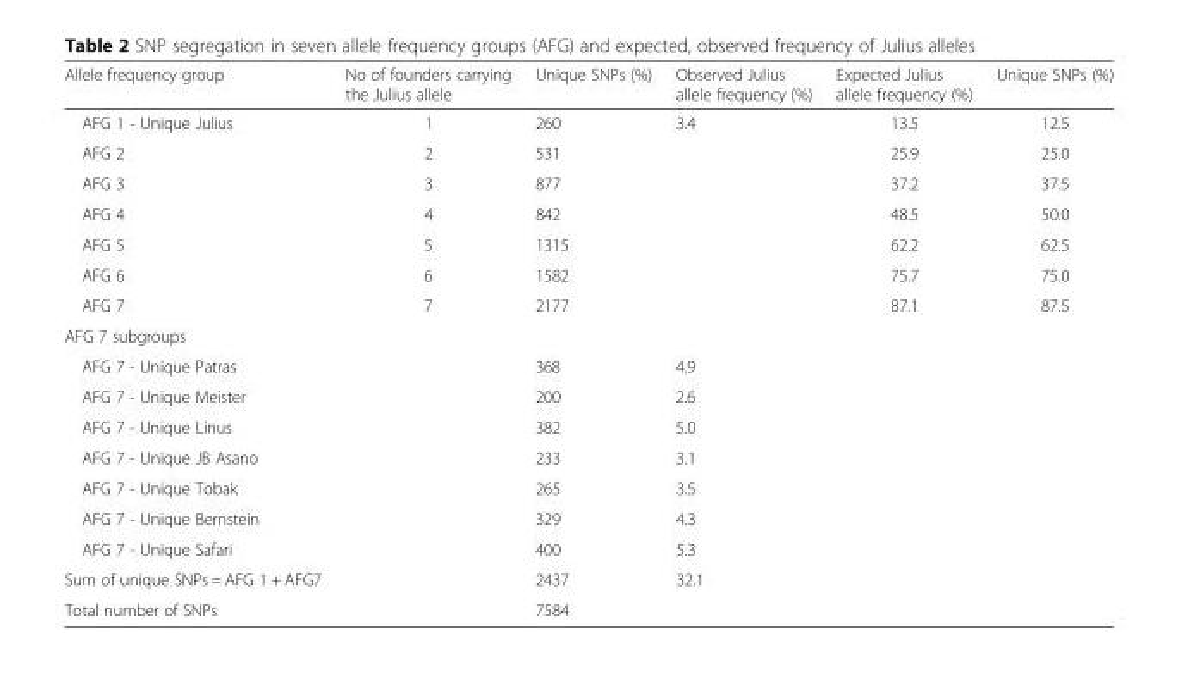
<table><thead><tr><td>Allele frequency group</td><td>No of founders carrying the Julius allele</td><td>Unique SNPs (%)</td><td>Observed Julius allele frequency (%)</td><td>Expected Julius allele frequency (%)</td><td>Unique SNPs (%)</td></tr></thead><tbody><tr><td>AFG 1 - Unique Julius</td><td>1</td><td>260</td><td>3.4</td><td>13.5</td><td>12.5</td></tr><tr><td>AFG 2</td><td>2</td><td>531</td><td></td><td>25.9</td><td>25.0</td></tr><tr><td>AFG 3</td><td>3</td><td>877</td><td></td><td>37.2</td><td>37.5</td></tr><tr><td>AFG 4</td><td>4</td><td>842</td><td></td><td>48.5</td><td>50.0</td></tr><tr><td>AFG 5</td><td>5</td><td>1315</td><td></td><td>62.2</td><td>62.5</td></tr><tr><td>AFG 6</td><td>6</td><td>1582</td><td></td><td>75.7</td><td>75.0</td></tr><tr><td>AFG 7</td><td>7</td><td>2177</td><td></td><td>87.1</td><td>87.5</td></tr><tr><td colspan="6">AFG 7 subgroups</td></tr><tr><td>AFG 7 - Unique Patras</td><td></td><td>368</td><td>4.9</td><td></td><td></td></tr><tr><td>AFG 7 - Unique Meister</td><td></td><td>200</td><td>2.6</td><td></td><td></td></tr><tr><td>AFG 7 - Unique Linus</td><td></td><td>382</td><td>5.0</td><td></td><td></td></tr><tr><td>AFG 7 - Unique JB Asano</td><td></td><td>233</td><td>3.1</td><td></td><td></td></tr><tr><td>AFG 7 - Unique Tobak</td><td></td><td>265</td><td>3.5</td><td></td><td></td></tr><tr><td>AFG 7 - Unique Bernstein</td><td></td><td>329</td><td>4.3</td><td></td><td></td></tr><tr><td>AFG 7 - Unique Safari</td><td></td><td>400</td><td>5.3</td><td></td><td></td></tr><tr><td>Sum of unique SNPs = AFG 1 + AFG7</td><td></td><td>2437</td><td>32.1</td><td></td><td></td></tr><tr><td>Total number of SNPs</td><td></td><td>7584</td><td></td><td></td><td></td></tr></tbody></table>